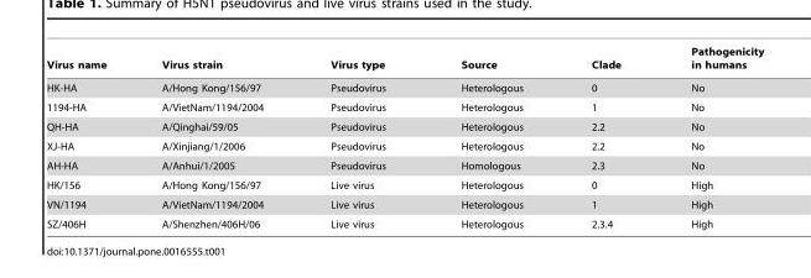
<table><thead><tr><td>Virus name</td><td>Virus strain</td><td>Virus type</td><td>Source</td><td>Clade</td><td>Pathogenicity in humans</td></tr></thead><tbody><tr><td>HK-HA</td><td>A/Hong Kong/156/97</td><td>Pseudovirus</td><td>Heterologous</td><td>0</td><td>No</td></tr><tr><td>1194-HA</td><td>A/VietNam/1194/2004</td><td>Pseudovirus</td><td>Heterologous</td><td>1</td><td>No</td></tr><tr><td>QH-HA</td><td>A/Qinghai/59/05</td><td>Pseudovirus</td><td>Heterologous</td><td>2.2</td><td>No</td></tr><tr><td>XJ-HA</td><td>A/Xinjiang/1/2006</td><td>Pseudovirus</td><td>Heterologous</td><td>2.2</td><td>No</td></tr><tr><td>AH-HA</td><td>A/Anhui/1/2005</td><td>Pseudovirus</td><td>Homologous</td><td>2.3</td><td>No</td></tr><tr><td>HK/156</td><td>A/Hong Kong/156/97</td><td>Live virus</td><td>Heterologous</td><td>0</td><td>High</td></tr><tr><td>VN/1194</td><td>A/VietNam/1194/2004</td><td>Live virus</td><td>Heterologous</td><td>1</td><td>High</td></tr><tr><td>SZ/406H</td><td>A/Shenzhen/406H/06</td><td>Live virus</td><td>Heterologous</td><td>2.3.4</td><td>High</td></tr></tbody></table>